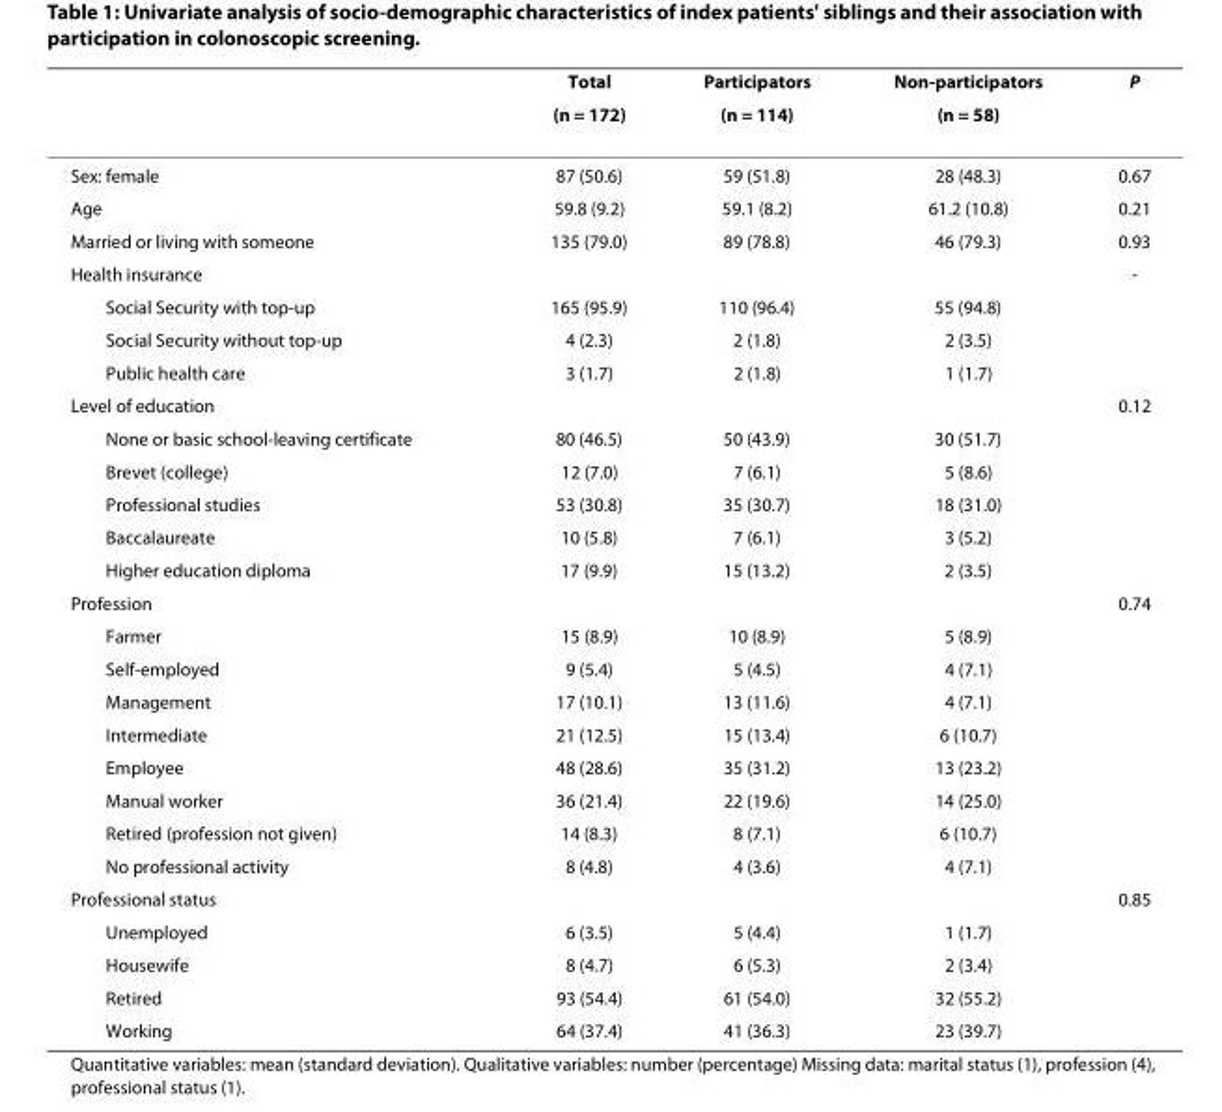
<table><thead><tr><td rowspan="2"></td><td rowspan="2">Total (n = 172)</td><td rowspan="2">Participators (n = 114)</td><td rowspan="2">Non-participators (n = 58)</td><td rowspan="2">P</td></tr><tr></tr></thead><tbody><tr><td>Sex: female</td><td>87 (50.6)</td><td>59 (51.8)</td><td>28 (48.3)</td><td>0.67</td></tr><tr><td>Age</td><td>59.8 (9.2)</td><td>59.1 (8.2)</td><td>61.2 (10.8)</td><td>0.21</td></tr><tr><td>Married or living with someone</td><td>135 (79.0)</td><td>89 (78.8)</td><td>46 (79.3)</td><td>0.93</td></tr><tr><td>Health insurance</td><td></td><td></td><td></td><td>-</td></tr><tr><td>Social Security with top-up</td><td>165 (95.9)</td><td>110 (96.4)</td><td>55 (94.8)</td><td></td></tr><tr><td>Social Security without top-up</td><td>4 (2.3)</td><td>2 (1.8)</td><td>2 (3.5)</td><td></td></tr><tr><td>Public health care</td><td>3 (1.7)</td><td>2 (1.8)</td><td>1 (1.7)</td><td></td></tr><tr><td>Level of education</td><td></td><td></td><td></td><td>0.12</td></tr><tr><td>None or basic school-leaving certificate</td><td>80 (46.5)</td><td>50 (43.9)</td><td>30 (51.7)</td><td></td></tr><tr><td>Brevet (college)</td><td>12 (7.0)</td><td>7 (6.1)</td><td>5 (8.6)</td><td></td></tr><tr><td>Professional studies</td><td>53 (30.8)</td><td>35 (30.7)</td><td>18 (31.0)</td><td></td></tr><tr><td>Baccalaureate</td><td>10 (5.8)</td><td>7 (6.1)</td><td>3 (5.2)</td><td></td></tr><tr><td>Higher education diploma</td><td>17 (9.9)</td><td>15 (13.2)</td><td>2 (3.5)</td><td></td></tr><tr><td>Profession</td><td></td><td></td><td></td><td>0.74</td></tr><tr><td>Farmer</td><td>15 (8.9)</td><td>10 (8.9)</td><td>5 (8.9)</td><td></td></tr><tr><td>Self-employed</td><td>9 (5.4)</td><td>5 (4.5)</td><td>4 (7.1)</td><td></td></tr><tr><td>Management</td><td>17 (10.1)</td><td>13 (11.6)</td><td>4 (7.1)</td><td></td></tr><tr><td>Intermediate</td><td>21 (12.5)</td><td>15 (13.4)</td><td>6 (10.7)</td><td></td></tr><tr><td>Employee</td><td>48 (28.6)</td><td>35 (31.2)</td><td>13 (23.2)</td><td></td></tr><tr><td>Manual worker</td><td>36 (21.4)</td><td>22 (19.6)</td><td>14 (25.0)</td><td></td></tr><tr><td>Retired (profession not given)</td><td>14 (8.3)</td><td>8 (7.1)</td><td>6 (10.7)</td><td></td></tr><tr><td>No professional activity</td><td>8 (4.8)</td><td>4 (3.6)</td><td>4 (7.1)</td><td></td></tr><tr><td>Professional status</td><td></td><td></td><td></td><td>0.85</td></tr><tr><td>Unemployed</td><td>6 (3.5)</td><td>5 (4.4)</td><td>1 (1.7)</td><td></td></tr><tr><td>Housewife</td><td>8 (4.7)</td><td>6 (5.3)</td><td>2 (3.4)</td><td></td></tr><tr><td>Retired</td><td>93 (54.4)</td><td>61 (54.0)</td><td>32 (55.2)</td><td></td></tr><tr><td>Working</td><td>64 (37.4)</td><td>41 (36.3)</td><td>23 (39.7)</td><td></td></tr></tbody></table>